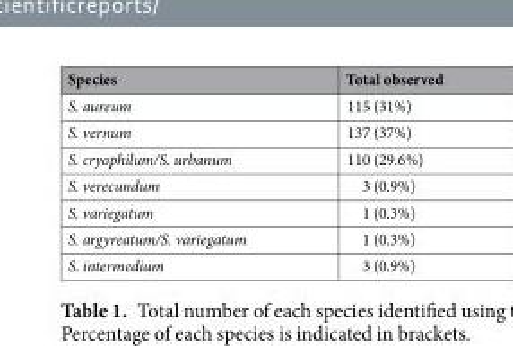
<table><thead><tr><td>Species</td><td>Total observed</td></tr></thead><tbody><tr><td>S. aureum</td><td>115 (31%)</td></tr><tr><td>S. vernum</td><td>137 (37%)</td></tr><tr><td>S. cryophilum/S. urbanum</td><td>110 (29.6%)</td></tr><tr><td>S. verecundum</td><td>3 (0.9%)</td></tr><tr><td>S. variegatum</td><td>1 (0.3%)</td></tr><tr><td>S. argyreatum/S. variegatum</td><td>1 (0.3%)</td></tr><tr><td>S. intermedium</td><td>3 (0.9%)</td></tr></tbody></table>